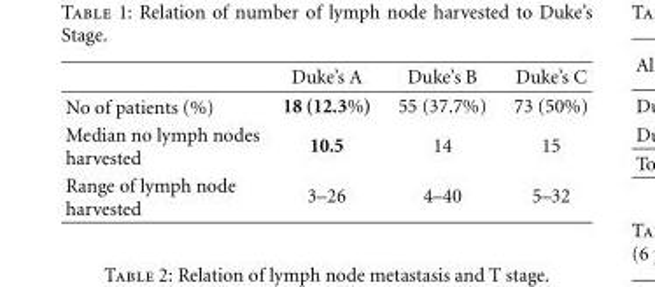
<table><thead><tr><td></td><td>Duke’s A</td><td>Duke’s B</td><td>Duke’s C</td></tr></thead><tbody><tr><td>No of patients (%)</td><td>18 (12.3%)</td><td>55 (37.7%)</td><td>73 (50%)</td></tr><tr><td>Median no lymph nodes harvested</td><td>10.5</td><td>14</td><td>15</td></tr><tr><td>Range of lymph node harvested</td><td>3–26</td><td>4–40</td><td>5–32</td></tr></tbody></table>